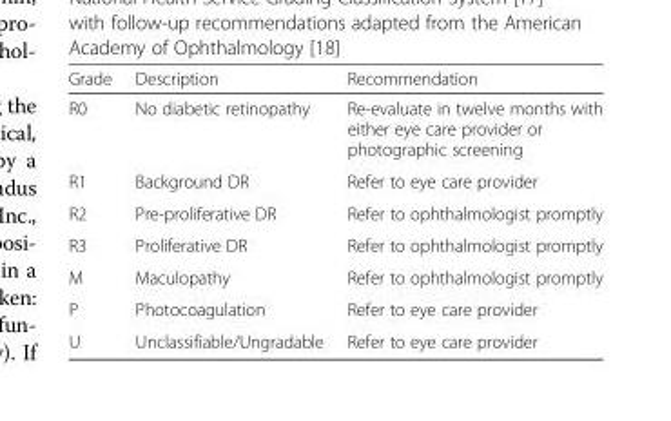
<table><thead><tr><td>Grade</td><td>Description</td><td>Recommendation</td></tr></thead><tbody><tr><td>R0</td><td>No diabetic retinopathy</td><td>Re-evaluate in twelve months with either eye care provider or photographic screening</td></tr><tr><td>R1</td><td>Background DR</td><td>Refer to eye care provider</td></tr><tr><td>R2</td><td>Pre-proliferative DR</td><td>Refer to ophthalmologist promptly</td></tr><tr><td>R3</td><td>Proliferative DR</td><td>Refer to ophthalmologist promptly</td></tr><tr><td>M</td><td>Maculopathy</td><td>Refer to ophthalmologist promptly</td></tr><tr><td>P</td><td>Photocoagulation</td><td>Refer to eye care provider</td></tr><tr><td>U</td><td>Unclassifiable/Ungradable</td><td>Refer to eye care provider</td></tr></tbody></table>